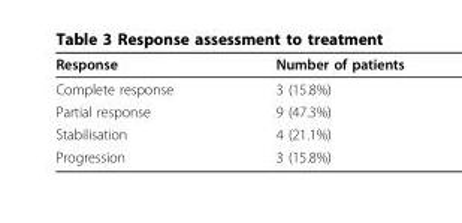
<table><thead><tr><td>Response</td><td>Number of patients</td></tr></thead><tbody><tr><td>Complete response</td><td>3 (15.8%)</td></tr><tr><td>Partial response</td><td>9 (47.3%)</td></tr><tr><td>Stabilisation</td><td>4 (21.1%)</td></tr><tr><td>Progression</td><td>3 (15.8%)</td></tr></tbody></table>